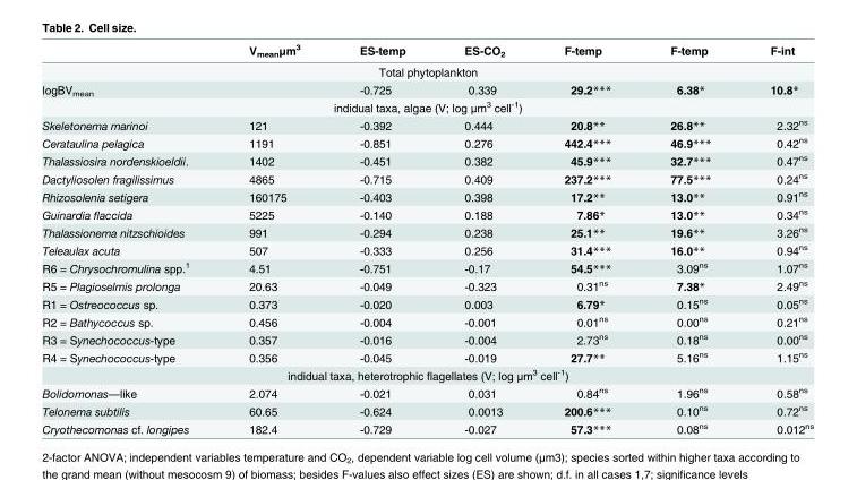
<table><thead><tr><td></td><td>V<sub>mean</sub>μm<sup>3</sup></td><td>ES-temp</td><td>ES-CO<sub>2</sub></td><td>F-temp</td><td>F-temp</td><td>F-int</td></tr></thead><tbody><tr><td colspan="7">Total phytoplankton</td></tr><tr><td>logBV<sub>mean</sub></td><td></td><td>-0.725</td><td>0.339</td><td>29.2***</td><td>6.38*</td><td>10.8*</td></tr><tr><td colspan="7">indidual taxa, algae (V; log μm<sup>3</sup> cell<sup>-1</sup>)</td></tr><tr><td>Skeletonema marinoi</td><td>121</td><td>-0.392</td><td>0.444</td><td>20.8**</td><td>26.8**</td><td>2.32<sup>ns</sup></td></tr><tr><td>Cerataulina pelagica</td><td>1191</td><td>-0.851</td><td>0.276</td><td>442.4***</td><td>46.9***</td><td>0.42<sup>ns</sup></td></tr><tr><td>Thalassiosira nordenskioeldii.</td><td>1402</td><td>-0.451</td><td>0.382</td><td>45.9***</td><td>32.7***</td><td>0.47<sup>ns</sup></td></tr><tr><td>Dactyliosolen fragilissimus</td><td>4865</td><td>-0.715</td><td>0.409</td><td>237.2***</td><td>77.5***</td><td>0.24<sup>ns</sup></td></tr><tr><td>Rhizosolenia setigera</td><td>160175</td><td>-0.403</td><td>0.398</td><td>17.2**</td><td>13.0**</td><td>0.91<sup>ns</sup></td></tr><tr><td>Guinardia flaccida</td><td>5225</td><td>-0.140</td><td>0.188</td><td>7.86*</td><td>13.0**</td><td>0.34<sup>ns</sup></td></tr><tr><td>Thalassionema nitzschioides</td><td>991</td><td>-0.294</td><td>0.238</td><td>25.1**</td><td>19.6**</td><td>3.26<sup>ns</sup></td></tr><tr><td>Teleaulax acuta</td><td>507</td><td>-0.333</td><td>0.256</td><td>31.4***</td><td>16.0**</td><td>0.94<sup>ns</sup></td></tr><tr><td>R6 = Chrysochromulina spp.<sup>1</sup></td><td>4.51</td><td>-0.751</td><td>-0.17</td><td>54.5***</td><td>3.09<sup>ns</sup></td><td>1.07<sup>ns</sup></td></tr><tr><td>R5 = Plagioselmis prolonga</td><td>20.63</td><td>-0.049</td><td>-0.323</td><td>0.31<sup>ns</sup></td><td>7.38*</td><td>2.49<sup>ns</sup></td></tr><tr><td>R1 = Ostreococcus sp.</td><td>0.373</td><td>-0.020</td><td>0.003</td><td>6.79*</td><td>0.15<sup>ns</sup></td><td>0.05<sup>ns</sup></td></tr><tr><td>R2 = Bathycoccus sp.</td><td>0.456</td><td>-0.004</td><td>-0.001</td><td>0.01<sup>ns</sup></td><td>0.00<sup>ns</sup></td><td>0.21<sup>ns</sup></td></tr><tr><td>R3 = Synechococcus-type</td><td>0.357</td><td>-0.016</td><td>-0.004</td><td>2.73<sup>ns</sup></td><td>0.18<sup>ns</sup></td><td>0.00<sup>ns</sup></td></tr><tr><td>R4 = Synechococcus-type</td><td>0.356</td><td>-0.045</td><td>-0.019</td><td>27.7**</td><td>5.16<sup>ns</sup></td><td>1.15<sup>ns</sup></td></tr><tr><td colspan="7">indidual taxa, heterotrophic flagellates (V; log μm<sup>3</sup> cell<sup>-1</sup>)</td></tr><tr><td>Bolidomonas—like</td><td>2.074</td><td>-0.021</td><td>0.031</td><td>0.84<sup>ns</sup></td><td>1.96<sup>ns</sup></td><td>0.58<sup>ns</sup></td></tr><tr><td>Telonema subtilis</td><td>60.65</td><td>-0.624</td><td>0.0013</td><td>200.6***</td><td>0.10<sup>ns</sup></td><td>0.72<sup>ns</sup></td></tr><tr><td>Cryothecomonas cf. longipes</td><td>182.4</td><td>-0.729</td><td>-0.027</td><td>57.3***</td><td>0.08<sup>ns</sup></td><td>0.012<sup>ns</sup></td></tr></tbody></table>